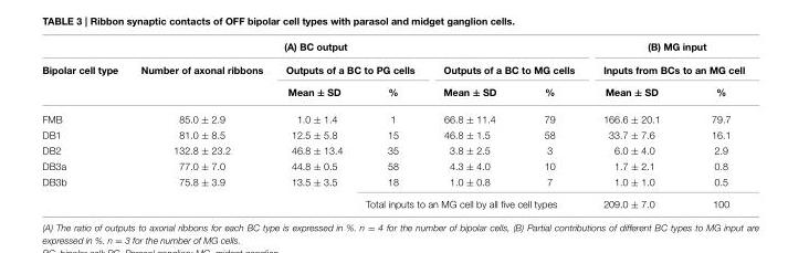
<table><thead><tr><td colspan="6">(A) BC output</td><td rowspan="2" colspan="2">(B) MG input Inputs from BCs to an MG cell</td></tr><tr><td rowspan="2">Bipolar cell type</td><td rowspan="2">Number of axonal ribbons</td><td colspan="2">Outputs of a BC to PG cells</td><td colspan="2">Outputs of a BC to MG cells</td></tr><tr><td>Mean ± SD</td><td>%</td><td>Mean ± SD</td><td>%</td><td>Mean ± SD</td><td>%</td></tr></thead><tbody><tr><td>FMB</td><td>85.0 ± 2.9</td><td>1.0 ± 1.4</td><td>1</td><td>66.8 ± 11.4</td><td>79</td><td>166.6 ± 20.1</td><td>79.7</td></tr><tr><td>DB1</td><td>81.0 ± 8.5</td><td>12.5 ± 5.8</td><td>15</td><td>46.8 ± 1.5</td><td>58</td><td>33.7 ± 7.6</td><td>16.1</td></tr><tr><td>DB2</td><td>132.8 ± 23.2</td><td>46.8 ± 13.4</td><td>35</td><td>3.8 ± 2.5</td><td>3</td><td>6.0 ± 4.0</td><td>2.9</td></tr><tr><td>DB3a</td><td>77.0 ± 7.0</td><td>44.8 ± 0.5</td><td>58</td><td>4.3 ± 4.0</td><td>10</td><td>1.7 ± 2.1</td><td>0.8</td></tr><tr><td>DB3b</td><td>75.8 ± 3.9</td><td>13.5 ± 3.5</td><td>18</td><td>1.0 ± 0.8</td><td>7</td><td>1.0 ± 1.0</td><td>0.5</td></tr><tr><td colspan="3"></td><td colspan="3">Total inputs to an MG cell by all five cell types</td><td>209.0 ± 7.0</td><td>100</td></tr></tbody></table>